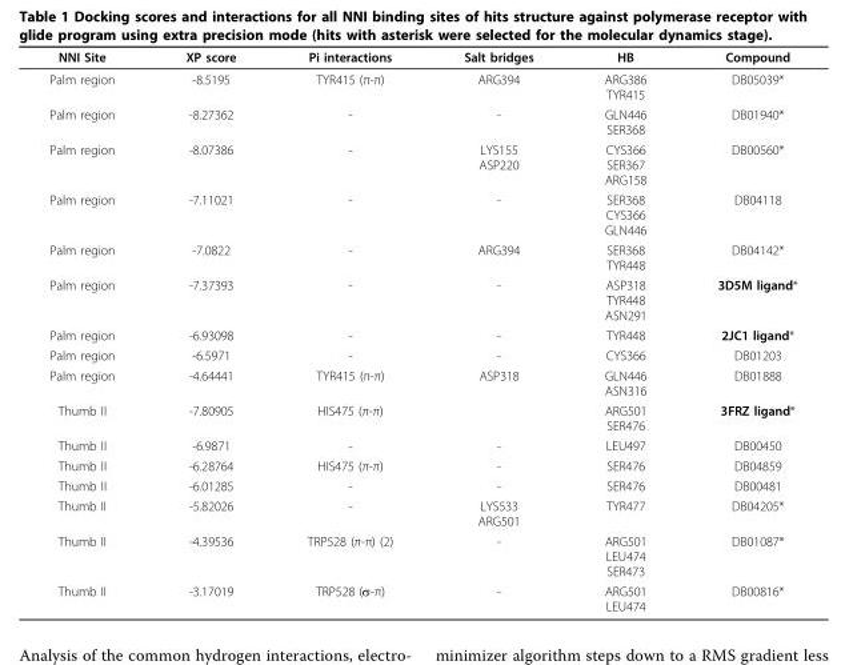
<table><thead><tr><td>NNI Site</td><td>XP score</td><td>Pi interactions</td><td>Salt bridges</td><td>HB</td><td>Compound</td></tr></thead><tbody><tr><td>Palm region</td><td>-8.5195</td><td>TYR415 (π-π)</td><td>ARG394</td><td>ARG386 TYR415</td><td>DB05039*</td></tr><tr><td>Palm region</td><td>-8.27362</td><td>-</td><td>-</td><td>GLN446 SER368</td><td>DB01940*</td></tr><tr><td>Palm region</td><td>-8.07386</td><td>-</td><td>LYS155 ASP220</td><td>CYS366 SER367 ARG158</td><td>DB00560*</td></tr><tr><td>Palm region</td><td>-7.11021</td><td>-</td><td>-</td><td>SER368 CYS366 GLN446</td><td>DB04118</td></tr><tr><td>Palm region</td><td>-7.0822</td><td>-</td><td>ARG394</td><td>SER368 TYR448</td><td>DB04142*</td></tr><tr><td>Palm region</td><td>-7.37393</td><td>-</td><td>-</td><td>ASP318 TYR448 ASN291</td><td>3D5M ligand*</td></tr><tr><td>Palm region</td><td>-6.93098</td><td>-</td><td>-</td><td>TYR448</td><td>2JC1 ligand*</td></tr><tr><td>Palm region</td><td>-6.5971</td><td>-</td><td>-</td><td>CYS366</td><td>DB01203</td></tr><tr><td>Palm region</td><td>-4.64441</td><td>TYR415 (π-π)</td><td>ASP318</td><td>GLN446 ASN316</td><td>DB01888</td></tr><tr><td>Thumb II</td><td>-7.80905</td><td>HIS475 (π-π)</td><td></td><td>ARG501 SER476</td><td>3FRZ ligand*</td></tr><tr><td>Thumb II</td><td>-6.9871</td><td>-</td><td>-</td><td>LEU497</td><td>DB00450</td></tr><tr><td>Thumb II</td><td>-6.28764</td><td>HIS475 (π-π)</td><td>-</td><td>SER476</td><td>DB04859</td></tr><tr><td>Thumb II</td><td>-6.01285</td><td>-</td><td>-</td><td>SER476</td><td>DB00481</td></tr><tr><td>Thumb II</td><td>-5.82026</td><td>-</td><td>LYS533 ARG501</td><td>TYR477</td><td>DB04205*</td></tr><tr><td>Thumb II</td><td>-4.39536</td><td>TRP528 (π-π) (2)</td><td>-</td><td>ARG501 LEU474 SER473</td><td>DB01087*</td></tr><tr><td>Thumb II</td><td>-3.17019</td><td>TRP528 (σ-π)</td><td>-</td><td>ARG501 LEU474</td><td>DB00816*</td></tr></tbody></table>